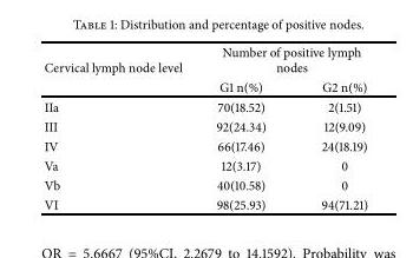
<table><thead><tr><td rowspan="2">Cervical lymph node level</td><td colspan="2">Number of positive lymph nodes</td></tr><tr><td>G1 n(%)</td><td>G2 n(%)</td></tr></thead><tbody><tr><td>IIa</td><td>70(18.52)</td><td>2(1.51)</td></tr><tr><td>III</td><td>92(24.34)</td><td>12(9.09)</td></tr><tr><td>IV</td><td>66(17.46)</td><td>24(18.19)</td></tr><tr><td>Va</td><td>12(3.17)</td><td>0</td></tr><tr><td>Vb</td><td>40(10.58)</td><td>0</td></tr><tr><td>VI</td><td>98(25.93)</td><td>94(71.21)</td></tr></tbody></table>